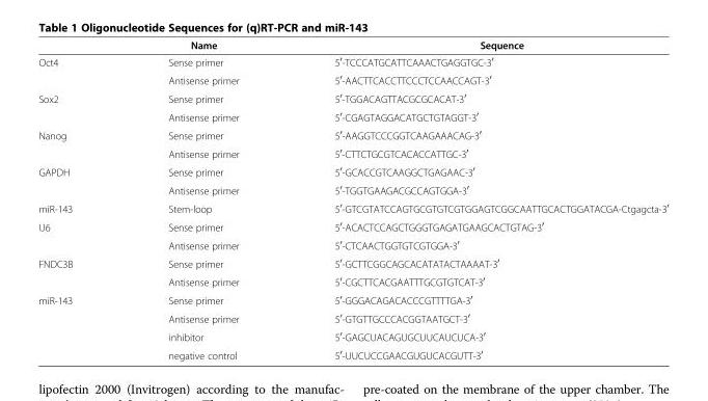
<table><thead><tr><td></td><td>Name</td><td>Sequence</td></tr></thead><tbody><tr><td rowspan="2">Oct4</td><td>Sense primer</td><td>5<sup>′</sup>-TCCCATGCATTCAAACTGAGGTGC-3<sup>′</sup></td></tr><tr><td>Antisense primer</td><td>5<sup>′</sup>-AACTTCACCTTCCCTCCAACCAGT-3<sup>′</sup></td></tr><tr><td rowspan="2">Sox2</td><td>Sense primer</td><td>5<sup>′</sup>-TGGACAGTTACGCGCACAT-3<sup>′</sup></td></tr><tr><td>Antisense primer</td><td>5<sup>′</sup>-CGAGTAGGACATGCTGTAGGT-3<sup>′</sup></td></tr><tr><td rowspan="2">Nanog</td><td>Sense primer</td><td>5<sup>′</sup>-AAGGTCCCGGTCAAGAAACAG-3<sup>′</sup></td></tr><tr><td>Antisense primer</td><td>5<sup>′</sup>-CTTCTGCGTCACACCATTGC-3<sup>′</sup></td></tr><tr><td rowspan="2">GAPDH</td><td>Sense primer</td><td>5<sup>′</sup>-GCACCGTCAAGGCTGAGAAC-3<sup>′</sup></td></tr><tr><td>Antisense primer</td><td>5<sup>′</sup>-TGGTGAAGACGCCAGTGGA-3<sup>′</sup></td></tr><tr><td>miR-143</td><td>Stem-loop</td><td>5<sup>′</sup>-GTCGTATCCAGTGCGTGTCGTGGAGTCGGCAATTGCACTGGATACGA-Ctgagcta-3<sup>′</sup></td></tr><tr><td rowspan="2">U6</td><td>Sense primer</td><td>5<sup>′</sup>-ACACTCCAGCTGGGTGAGATGAAGCACTGTAG-3<sup>′</sup></td></tr><tr><td>Antisense primer</td><td>5<sup>′</sup>-CTCAACTGGTGTCGTGGA-3<sup>′</sup></td></tr><tr><td rowspan="2">FNDC3B</td><td>Sense primer</td><td>5<sup>′</sup>-GCTTCGGCAGCACATATACTAAAAT-3<sup>′</sup></td></tr><tr><td>Antisense primer</td><td>5<sup>′</sup>-CGCTTCACGAATTTGCGTGTCAT-3<sup>′</sup></td></tr><tr><td rowspan="4">miR-143</td><td>Sense primer</td><td>5<sup>′</sup>-GGGACAGACACCCGTTTTGA-3<sup>′</sup></td></tr><tr><td>Antisense primer</td><td>5<sup>′</sup>-GTGTTGCCCACGGTAATGCT-3<sup>′</sup></td></tr><tr><td>inhibitor</td><td>5<sup>′</sup>-GAGCUACAGUGCUUCAUCUCA-3<sup>′</sup></td></tr><tr><td>negative control</td><td>5<sup>′</sup>-UUCUCCGAACGUGUCACGUTT-3<sup>′</sup></td></tr></tbody></table>